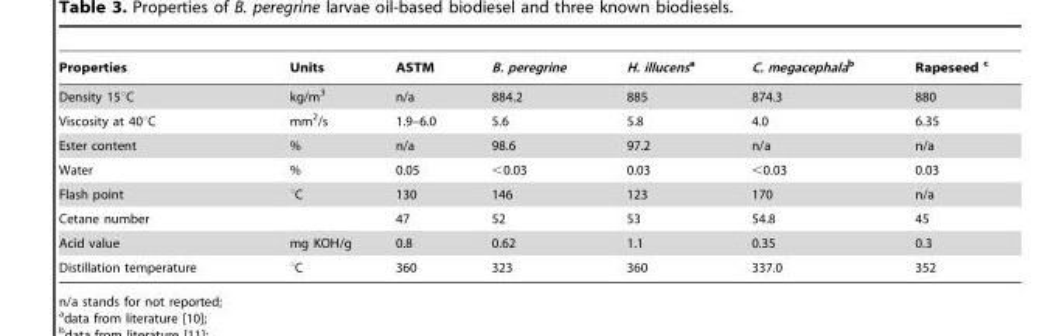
<table><thead><tr><td>Properties</td><td>Units</td><td>ASTM</td><td>B. peregrine</td><td>H. illucensa</td><td>C. megacephalab</td><td>Rapeseed c</td></tr></thead><tbody><tr><td>Density 15°C</td><td>kg/m<sup>3</sup></td><td>n/a</td><td>884.2</td><td>885</td><td>874.3</td><td>880</td></tr><tr><td>Viscosity at 40°C</td><td>mm<sup>2</sup>/s</td><td>1.9–6.0</td><td>5.6</td><td>5.8</td><td>4.0</td><td>6.35</td></tr><tr><td>Ester content</td><td>%</td><td>n/a</td><td>98.6</td><td>97.2</td><td>n/a</td><td>n/a</td></tr><tr><td>Water</td><td>%</td><td>0.05</td><td>&lt;0.03</td><td>0.03</td><td>&lt;0.03</td><td>0.03</td></tr><tr><td>Flash point</td><td>°C</td><td>130</td><td>146</td><td>123</td><td>170</td><td>n/a</td></tr><tr><td>Cetane number</td><td></td><td>47</td><td>52</td><td>53</td><td>54.8</td><td>45</td></tr><tr><td>Acid value</td><td>mg KOH/g</td><td>0.8</td><td>0.62</td><td>1.1</td><td>0.35</td><td>0.3</td></tr><tr><td>Distillation temperature</td><td>°C</td><td>360</td><td>323</td><td>360</td><td>337.0</td><td>352</td></tr></tbody></table>